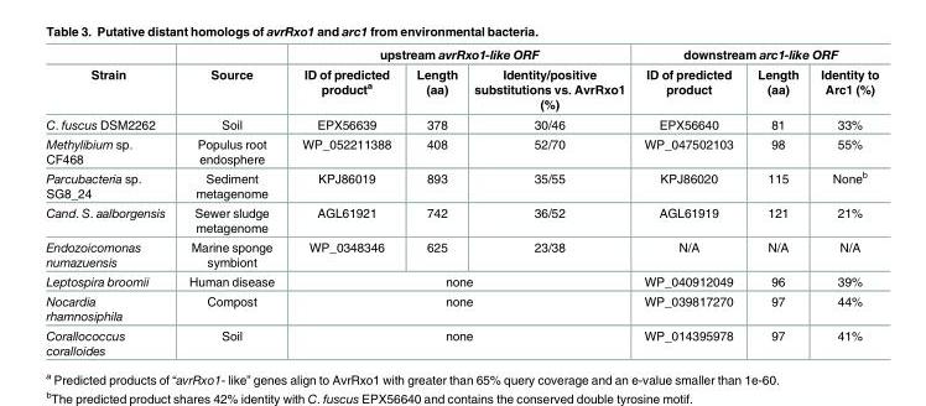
<table><thead><tr><td rowspan="2">Strain</td><td rowspan="2">Source</td><td colspan="3">upstream avrRxo1-like ORF</td><td colspan="3">downstream arc1-like ORF</td></tr><tr><td>ID of predicted product<sup>a</sup></td><td>Length (aa)</td><td>Identity/positive substitutions vs. AvrRxo1 (%)</td><td>ID of predicted product</td><td>Length (aa)</td><td>Identity to Arc1 (%)</td></tr></thead><tbody><tr><td>C. fuscus DSM2262</td><td>Soil</td><td>EPX56639</td><td>378</td><td>30/46</td><td>EPX56640</td><td>81</td><td>33%</td></tr><tr><td>Methylibium sp. CF468</td><td>Populus root endosphere</td><td>WP_052211388</td><td>408</td><td>52/70</td><td>WP_047502103</td><td>98</td><td>55%</td></tr><tr><td>Parcubacteria sp. SG8_24</td><td>Sediment metagenome</td><td>KPJ86019</td><td>893</td><td>35/55</td><td>KPJ86020</td><td>115</td><td>None<sup>b</sup></td></tr><tr><td>Cand. S. aalborgensis</td><td>Sewer sludge metagenome</td><td>AGL61921</td><td>742</td><td>36/52</td><td>AGL61919</td><td>121</td><td>21%</td></tr><tr><td>Endozoicomonas numazuensis</td><td>Marine sponge symbiont</td><td>WP_0348346</td><td>625</td><td>23/38</td><td>N/A</td><td>N/A</td><td>N/A</td></tr><tr><td>Leptospira broomii</td><td>Human disease</td><td colspan="3">none</td><td>WP_040912049</td><td>96</td><td>39%</td></tr><tr><td>Nocardia rhamnosiphila</td><td>Compost</td><td colspan="3">none</td><td>WP_039817270</td><td>97</td><td>44%</td></tr><tr><td>Corallococcus coralloides</td><td>Soil</td><td colspan="3">none</td><td>WP_014395978</td><td>97</td><td>41%</td></tr></tbody></table>